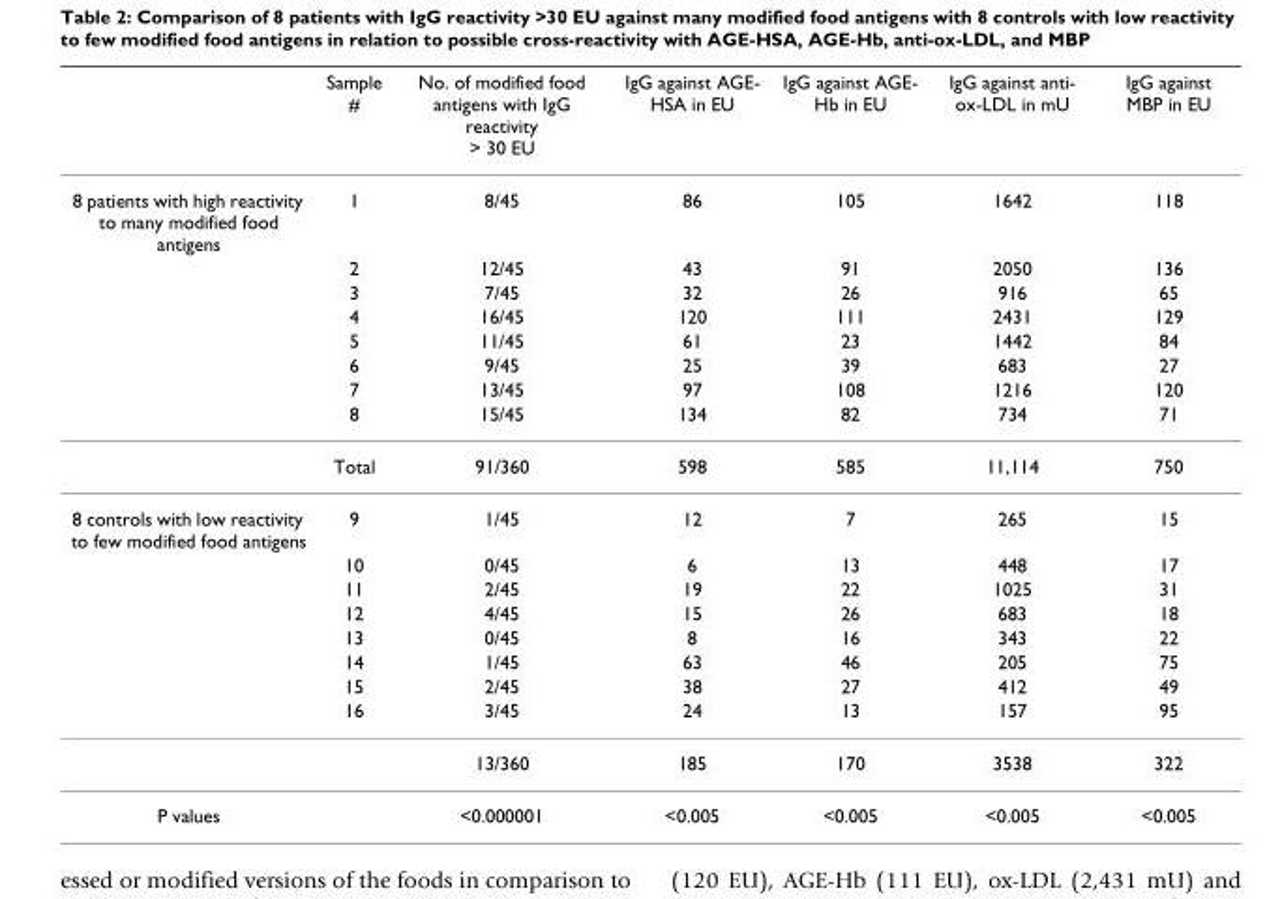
<table><thead><tr><td></td><td>Sample #</td><td>No. of modified food antigens with IgG reactivity &gt; 30 EU</td><td>IgG against AGE- HSA in EU</td><td>IgG against AGE- Hb in EU</td><td>IgG against anti- ox-LDL in mU</td><td>IgG against MBP in EU</td></tr></thead><tbody><tr><td rowspan="9">8 patients with high reactivity to many modified food antigens</td><td>1</td><td>8/45</td><td>86</td><td>105</td><td>1642</td><td>118</td></tr><tr><td>2</td><td>12/45</td><td>43</td><td>91</td><td>2050</td><td>136</td></tr><tr><td>3</td><td>7/45</td><td>32</td><td>26</td><td>916</td><td>65</td></tr><tr><td>4</td><td>16/45</td><td>120</td><td>111</td><td>2431</td><td>129</td></tr><tr><td>5</td><td>11/45</td><td>61</td><td>23</td><td>1442</td><td>84</td></tr><tr><td>6</td><td>9/45</td><td>25</td><td>39</td><td>683</td><td>27</td></tr><tr><td>7</td><td>13/45</td><td>97</td><td>108</td><td>1216</td><td>120</td></tr><tr><td>8</td><td>15/45</td><td>134</td><td>82</td><td>734</td><td>71</td></tr><tr><td>Total</td><td>91/360</td><td>598</td><td>585</td><td>11,114</td><td>750</td></tr><tr><td rowspan="9">8 controls with low reactivity to few modified food antigens</td><td>9</td><td>1/45</td><td>12</td><td>7</td><td>265</td><td>15</td></tr><tr><td>10</td><td>0/45</td><td>6</td><td>13</td><td>448</td><td>17</td></tr><tr><td>11</td><td>2/45</td><td>19</td><td>22</td><td>1025</td><td>31</td></tr><tr><td>12</td><td>4/45</td><td>15</td><td>26</td><td>683</td><td>18</td></tr><tr><td>13</td><td>0/45</td><td>8</td><td>16</td><td>343</td><td>22</td></tr><tr><td>14</td><td>1/45</td><td>63</td><td>46</td><td>205</td><td>75</td></tr><tr><td>15</td><td>2/45</td><td>38</td><td>27</td><td>412</td><td>49</td></tr><tr><td>16</td><td>3/45</td><td>24</td><td>13</td><td>157</td><td>95</td></tr><tr><td></td><td>13/360</td><td>185</td><td>170</td><td>3538</td><td>322</td></tr><tr><td>P values</td><td></td><td>&lt;0.000001</td><td>&lt;0.005</td><td>&lt;0.005</td><td>&lt;0.005</td><td>&lt;0.005</td></tr></tbody></table>